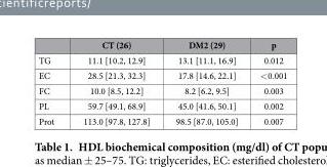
<table><thead><tr><td></td><td>CT (26)</td><td>DM2 (29)</td><td>p</td></tr></thead><tbody><tr><td>TG</td><td>11.1 [10.2, 12.9]</td><td>13.1 [11.1, 16.9]</td><td>0.012</td></tr><tr><td>EC</td><td>28.5 [21.3, 32.3]</td><td>17.8 [14.6, 22.1]</td><td>&lt; 0.001</td></tr><tr><td>FC</td><td>10.0 [8.5, 12.2]</td><td>8.2 [6.2, 9.5]</td><td>0.003</td></tr><tr><td>PL</td><td>59.7 [49.1, 68.9]</td><td>45.0 [41.6, 50.1]</td><td>0.002</td></tr><tr><td>Prot</td><td>113.0 [97.8, 127.8]</td><td>98.5 [87.0, 105.0]</td><td>0.007</td></tr></tbody></table>